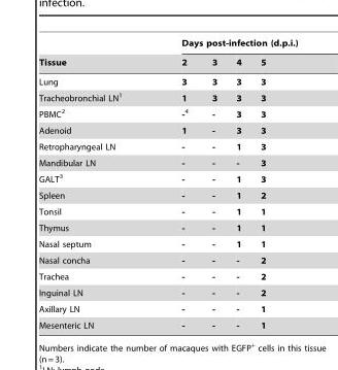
<table><thead><tr><td rowspan="2">Tissue</td><td colspan="4">Days post-infection (d.p.i.)</td></tr><tr><td>2</td><td>3</td><td>4</td><td>5</td></tr></thead><tbody><tr><td>Lung</td><td>3</td><td>3</td><td>3</td><td>3</td></tr><tr><td>Tracheobronchial LN<sup>1</sup></td><td>1</td><td>3</td><td>3</td><td>3</td></tr><tr><td>PBMC<sup>2</sup></td><td>-4</td><td>-</td><td>3</td><td>3</td></tr><tr><td>Adenoid</td><td>1</td><td>-</td><td>3</td><td>3</td></tr><tr><td>Retropharyngeal LN</td><td>-</td><td>-</td><td>1</td><td>3</td></tr><tr><td>Mandibular LN</td><td>-</td><td>-</td><td>-</td><td>3</td></tr><tr><td>GALT<sup>3</sup></td><td>-</td><td>-</td><td>1</td><td>3</td></tr><tr><td>Spleen</td><td>-</td><td>-</td><td>1</td><td>2</td></tr><tr><td>Tonsil</td><td>-</td><td>-</td><td>1</td><td>1</td></tr><tr><td>Thymus</td><td>-</td><td>-</td><td>1</td><td>1</td></tr><tr><td>Nasal septum</td><td>-</td><td>-</td><td>1</td><td>1</td></tr><tr><td>Nasal concha</td><td>-</td><td>-</td><td>-</td><td>2</td></tr><tr><td>Trachea</td><td>-</td><td>-</td><td>-</td><td>2</td></tr><tr><td>Inguinal LN</td><td>-</td><td>-</td><td>-</td><td>2</td></tr><tr><td>Axillary LN</td><td>-</td><td>-</td><td>-</td><td>1</td></tr><tr><td>Mesenteric LN</td><td>-</td><td>-</td><td>-</td><td>1</td></tr></tbody></table>